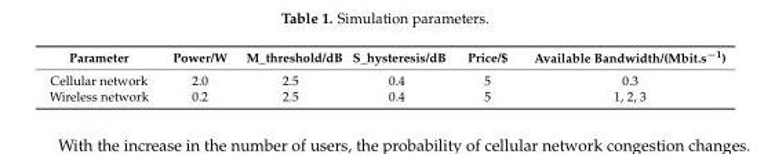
<table><thead><tr><td>Parameter</td><td>Power/W</td><td>M_threshold/dB</td><td>S_hysteresis/dB</td><td>Price/$</td><td>Available Bandwidth/(Mbit.s<sup>−1</sup>)</td></tr></thead><tbody><tr><td>Cellular network</td><td>2.0</td><td>2.5</td><td>0.4</td><td>5</td><td>0.3</td></tr><tr><td>Wireless network</td><td>0.2</td><td>2.5</td><td>0.4</td><td>5</td><td>1, 2, 3</td></tr></tbody></table>